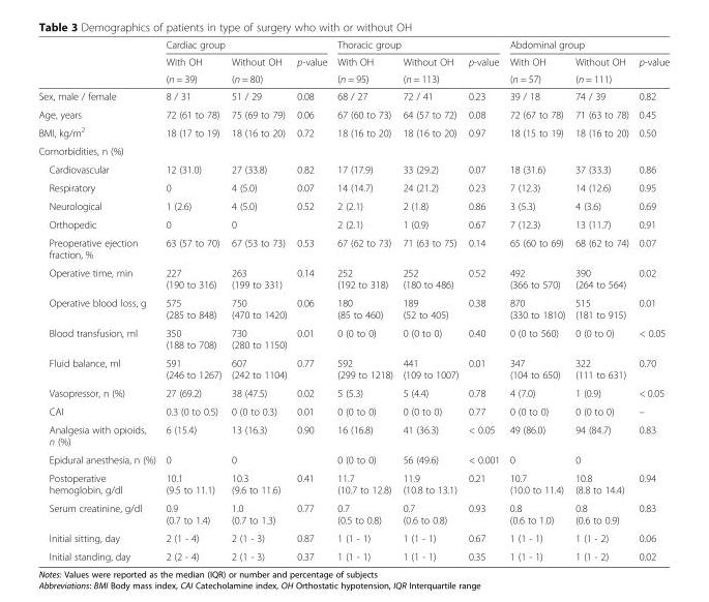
<table><thead><tr><td rowspan="3"></td><td colspan="3">Cardiac group</td><td colspan="3">Thoracic group</td><td colspan="3">Abdominal group</td></tr><tr><td rowspan="2">With OH (n = 39)</td><td rowspan="2">Without OH (n = 80)</td><td rowspan="2">p-value</td><td rowspan="2">With OH (n = 95)</td><td rowspan="2">Without OH (n = 113)</td><td rowspan="2">p-value</td><td rowspan="2">With OH (n = 57)</td><td rowspan="2">Without OH (n = 111)</td><td rowspan="2">p-value</td></tr><tr></tr></thead><tbody><tr><td>Sex, male / female</td><td>8 / 31</td><td>51 / 29</td><td>0.08</td><td>68 / 27</td><td>72 / 41</td><td>0.23</td><td>39 / 18</td><td>74 / 39</td><td>0.82</td></tr><tr><td>Age, years</td><td>72 (61 to 78)</td><td>75 (69 to 79)</td><td>0.06</td><td>67 (60 to 73)</td><td>64 (57 to 72)</td><td>0.08</td><td>72 (67 to 78)</td><td>71 (63 to 78)</td><td>0.45</td></tr><tr><td>BMI, kg/m<sup>2</sup></td><td>18 (17 to 19)</td><td>18 (16 to 20)</td><td>0.72</td><td>18 (16 to 20)</td><td>18 (16 to 20)</td><td>0.97</td><td>18 (15 to 19)</td><td>18 (16 to 20)</td><td>0.50</td></tr><tr><td colspan="10">Comorbidities, n (%)</td></tr><tr><td>Cardiovascular</td><td>12 (31.0)</td><td>27 (33.8)</td><td>0.82</td><td>17 (17.9)</td><td>33 (29.2)</td><td>0.07</td><td>18 (31.6)</td><td>37 (33.3)</td><td>0.86</td></tr><tr><td>Respiratory</td><td>0</td><td>4 (5.0)</td><td>0.07</td><td>14 (14.7)</td><td>24 (21.2)</td><td>0.23</td><td>7 (12.3)</td><td>14 (12.6)</td><td>0.95</td></tr><tr><td>Neurological</td><td>1 (2.6)</td><td>4 (5.0)</td><td>0.52</td><td>2 (2.1)</td><td>2 (1.8)</td><td>0.86</td><td>3 (5.3)</td><td>4 (3.6)</td><td>0.69</td></tr><tr><td>Orthopedic</td><td>0</td><td>0</td><td></td><td>2 (2.1)</td><td>1 (0.9)</td><td>0.67</td><td>7 (12.3)</td><td>13 (11.7)</td><td>0.91</td></tr><tr><td>Preoperative ejection fraction, %</td><td>63 (57 to 70)</td><td>67 (53 to 73)</td><td>0.53</td><td>67 (62 to 73)</td><td>71 (63 to 75)</td><td>0.14</td><td>65 (60 to 69)</td><td>68 (62 to 74)</td><td>0.07</td></tr><tr><td>Operative time, min</td><td>227 (190 to 316)</td><td>263 (199 to 331)</td><td>0.14</td><td>252 (192 to 318)</td><td>252 (180 to 486)</td><td>0.52</td><td>492 (366 to 570)</td><td>390 (264 to 564)</td><td>0.02</td></tr><tr><td>Operative blood loss, g</td><td>575 (285 to 848)</td><td>750 (470 to 1420)</td><td>0.06</td><td>180 (85 to 460)</td><td>189 (52 to 405)</td><td>0.38</td><td>870 (330 to 1810)</td><td>515 (181 to 915)</td><td>0.01</td></tr><tr><td>Blood transfusion, ml</td><td>350 (188 to 708)</td><td>730 (280 to 1150)</td><td>0.01</td><td>0 (0 to 0)</td><td>0 (0 to 0)</td><td>0.40</td><td>0 (0 to 560)</td><td>0 (0 to 0)</td><td>&lt; 0.05</td></tr><tr><td>Fluid balance, ml</td><td>591 (246 to 1267)</td><td>607 (242 to 1104)</td><td>0.77</td><td>592 (299 to 1218)</td><td>441 (109 to 1007)</td><td>0.01</td><td>347 (104 to 650)</td><td>322 (111 to 631)</td><td>0.70</td></tr><tr><td>Vasopressor, n (%)</td><td>27 (69.2)</td><td>38 (47.5)</td><td>0.02</td><td>5 (5.3)</td><td>5 (4.4)</td><td>0.78</td><td>4 (7.0)</td><td>1 (0.9)</td><td>&lt; 0.05</td></tr><tr><td>CAI</td><td>0.3 (0 to 0.5)</td><td>0 (0 to 0.3)</td><td>0.01</td><td>0 (0 to 0)</td><td>0 (0 to 0)</td><td>0.77</td><td>0 (0 to 0)</td><td>0 (0 to 0)</td><td>–</td></tr><tr><td>Analgesia with opioids, n (%)</td><td>6 (15.4)</td><td>13 (16.3)</td><td>0.90</td><td>16 (16.8)</td><td>41 (36.3)</td><td>&lt; 0.05</td><td>49 (86.0)</td><td>94 (84.7)</td><td>0.83</td></tr><tr><td>Epidural anesthesia, n (%)</td><td>0</td><td>0</td><td></td><td>0 (0 to 0)</td><td>56 (49.6)</td><td>&lt; 0.001</td><td>0</td><td>0</td><td></td></tr><tr><td>Postoperative hemoglobin, g/dl</td><td>10.1 (9.5 to 11.1)</td><td>10.3 (9.6 to 11.6)</td><td>0.41</td><td>11.7 (10.7 to 12.8)</td><td>11.9 (10.8 to 13.1)</td><td>0.21</td><td>10.7 (10.0 to 11.4)</td><td>10.8 (8.8 to 14.4)</td><td>0.94</td></tr><tr><td>Serum creatinine, g/dl</td><td>0.9 (0.7 to 1.4)</td><td>1.0 (0.7 to 1.3)</td><td>0.77</td><td>0.7 (0.5 to 0.8)</td><td>0.7 (0.6 to 0.8)</td><td>0.93</td><td>0.8 (0.6 to 1.0)</td><td>0.8 (0.6 to 0.9)</td><td>0.83</td></tr><tr><td>Initial sitting, day</td><td>2 (1 - 4)</td><td>2 (1 - 3)</td><td>0.87</td><td>1 (1 - 1)</td><td>1 (1 - 1)</td><td>0.67</td><td>1 (1 - 1)</td><td>1 (1 - 2)</td><td>0.06</td></tr><tr><td>Initial standing, day</td><td>2 (2 - 4)</td><td>2 (1 - 3)</td><td>0.37</td><td>1 (1 - 1)</td><td>1 (1 - 1)</td><td>0.35</td><td>1 (1 - 1)</td><td>1 (1 - 2)</td><td>0.02</td></tr></tbody></table>